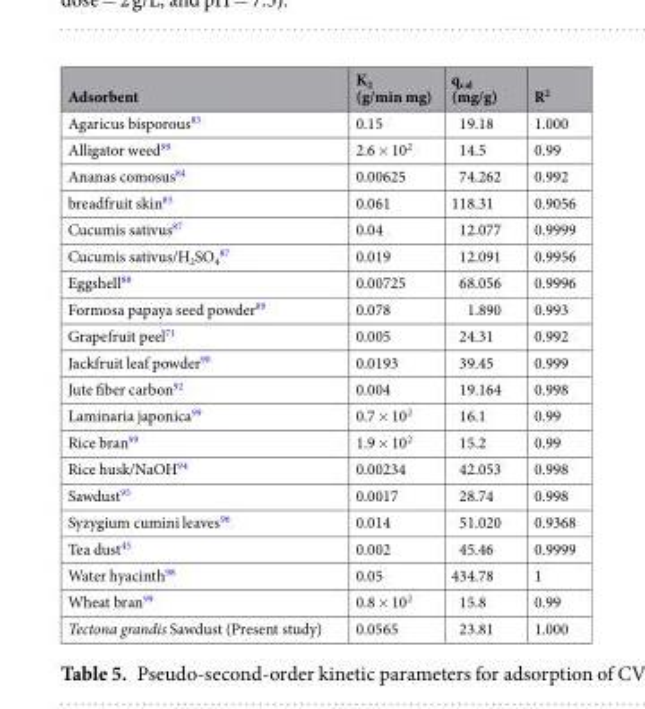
<table><thead><tr><td>Adsorbent</td><td>K<sub>2</sub> (g/min mg)</td><td>q<sub>cal</sub> (mg/g)</td><td>R<sup>2</sup></td></tr></thead><tbody><tr><td>Agaricus bisporous<sup>83</sup></td><td>0.15</td><td>19.18</td><td>1.000</td></tr><tr><td>Alligator weed<sup>99</sup></td><td>2.6 × 10<sup>2</sup></td><td>14.5</td><td>0.99</td></tr><tr><td>Ananas comosus<sup>84</sup></td><td>0.00625</td><td>74.262</td><td>0.992</td></tr><tr><td>breadfruit skin<sup>85</sup></td><td>0.061</td><td>118.31</td><td>0.9056</td></tr><tr><td>Cucumis sativus<sup>87</sup></td><td>0.04</td><td>12.077</td><td>0.9999</td></tr><tr><td>Cucumis sativus/H<sub>2</sub>SO<sub>4</sub> <sup>87</sup></td><td>0.019</td><td>12.091</td><td>0.9956</td></tr><tr><td>Eggshell<sup>88</sup></td><td>0.00725</td><td>68.056</td><td>0.9996</td></tr><tr><td>Formosa papaya seed powder<sup>89</sup></td><td>0.078</td><td>1.890</td><td>0.993</td></tr><tr><td>Grapefruit peel<sup>71</sup></td><td>0.005</td><td>24.31</td><td>0.992</td></tr><tr><td>Jackfruit leaf powder<sup>90</sup></td><td>0.0193</td><td>39.45</td><td>0.999</td></tr><tr><td>Jute fiber carbon<sup>92</sup></td><td>0.004</td><td>19.164</td><td>0.998</td></tr><tr><td>Laminaria japonica<sup>99</sup></td><td>0.7 × 10<sup>2</sup></td><td>16.1</td><td>0.99</td></tr><tr><td>Rice bran<sup>99</sup></td><td>1.9 × 10<sup>2</sup></td><td>15.2</td><td>0.99</td></tr><tr><td>Rice husk/NaOH<sup>94</sup></td><td>0.00234</td><td>42.053</td><td>0.998</td></tr><tr><td>Sawdust<sup>95</sup></td><td>0.0017</td><td>28.74</td><td>0.998</td></tr><tr><td>Syzygium cumini leaves<sup>96</sup></td><td>0.014</td><td>51.020</td><td>0.9368</td></tr><tr><td>Tea dust<sup>45</sup></td><td>0.002</td><td>45.46</td><td>0.9999</td></tr><tr><td>Water hyacinth<sup>98</sup></td><td>0.05</td><td>434.78</td><td>1</td></tr><tr><td>Wheat bran<sup>99</sup></td><td>0.8 × 10<sup>2</sup></td><td>15.8</td><td>0.99</td></tr><tr><td>Tectona grandis Sawdust (Present study)</td><td>0.0565</td><td>23.81</td><td>1.000</td></tr></tbody></table>